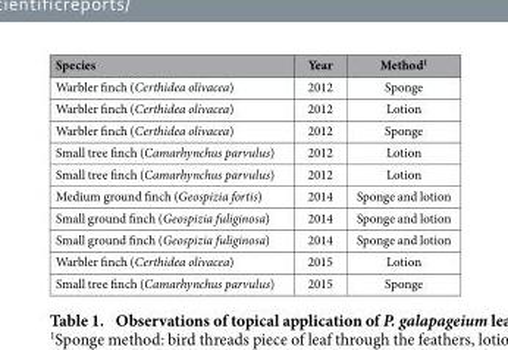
<table><thead><tr><td>Species</td><td>Year</td><td>Method<sup>1</sup></td></tr></thead><tbody><tr><td>Warbler finch (Certhidea olivacea)</td><td>2012</td><td>Sponge</td></tr><tr><td>Warbler finch (Certhidea olivacea)</td><td>2012</td><td>Lotion</td></tr><tr><td>Warbler finch (Certhidea olivacea)</td><td>2012</td><td>Sponge</td></tr><tr><td>Small tree finch (Camarhynchus parvulus)</td><td>2012</td><td>Lotion</td></tr><tr><td>Small tree finch (Camarhynchus parvulus)</td><td>2012</td><td>Lotion</td></tr><tr><td>Medium ground finch (Geospizia fortis)</td><td>2014</td><td>Sponge and lotion</td></tr><tr><td>Small ground finch (Geospizia fuliginosa)</td><td>2014</td><td>Sponge and lotion</td></tr><tr><td>Small ground finch (Geospizia fuliginosa)</td><td>2014</td><td>Sponge and lotion</td></tr><tr><td>Warbler finch (Certhidea olivacea)</td><td>2015</td><td>Lotion</td></tr><tr><td>Small tree finch (Camarhynchus parvulus)</td><td>2015</td><td>Sponge</td></tr></tbody></table>